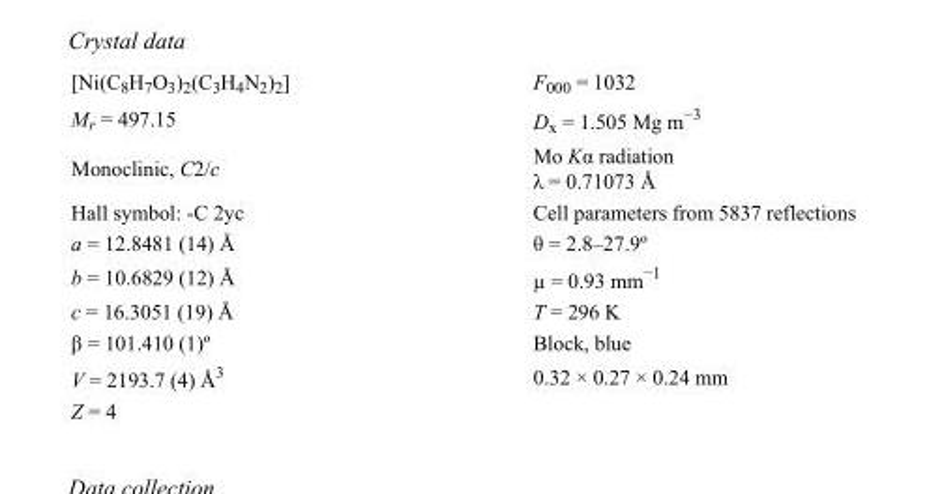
<table><tbody><tr><td>[Ni(C<sub>8</sub>H<sub>7</sub>O<sub>3</sub>)<sub>2</sub>(C<sub>3</sub>H<sub>4</sub>N<sub>2</sub>)<sub>2</sub>]</td><td>F000 = 1032</td></tr><tr><td>M<sub>r</sub> = 497.15</td><td>D<sub>x</sub> = 1.505 Mg m<sup>−3</sup></td></tr><tr><td>Monoclinic, C2/c</td><td>Mo Kα radiation λ = 0.71073 Å</td></tr><tr><td>Hall symbol: -C 2yc</td><td>Cell parameters from 5837 reflections</td></tr><tr><td>a = 12.8481 (14) Å</td><td>θ = 2.8–27.9º</td></tr><tr><td>b = 10.6829 (12) Å</td><td>µ = 0.93 mm<sup>−1</sup></td></tr><tr><td>c = 16.3051 (19) Å</td><td>T = 296 K</td></tr><tr><td>β = 101.410 (1)º</td><td>Block, blue</td></tr><tr><td>V = 2193.7 (4) Å<sup>3</sup></td><td>0.32 × 0.27 × 0.24 mm</td></tr><tr><td>Z = 4</td><td></td></tr></tbody></table>